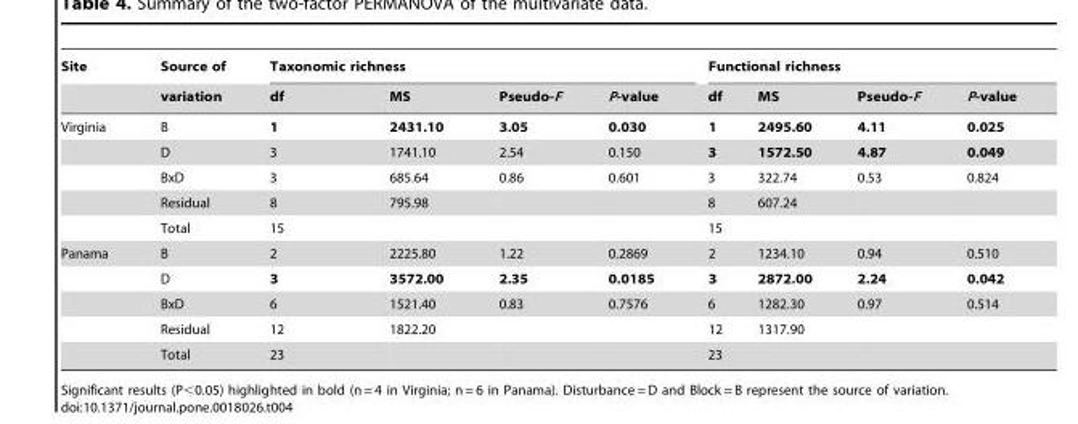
<table><thead><tr><td rowspan="2">Site</td><td rowspan="2">Source of variation</td><td colspan="4">Taxonomic richness</td><td colspan="4">Functional richness</td></tr><tr><td>df</td><td>MS</td><td>Pseudo-F</td><td>P-value</td><td>df</td><td>MS</td><td>Pseudo-F</td><td>P-value</td></tr></thead><tbody><tr><td rowspan="5">Virginia</td><td>B</td><td>1</td><td>2431.10</td><td>3.05</td><td>0.030</td><td>1</td><td>2495.60</td><td>4.11</td><td>0.025</td></tr><tr><td>D</td><td>3</td><td>1741.10</td><td>2.54</td><td>0.150</td><td>3</td><td>1572.50</td><td>4.87</td><td>0.049</td></tr><tr><td>BxD</td><td>3</td><td>685.64</td><td>0.86</td><td>0.601</td><td>3</td><td>322.74</td><td>0.53</td><td>0.824</td></tr><tr><td>Residual</td><td>8</td><td>795.98</td><td></td><td></td><td>8</td><td>607.24</td><td></td><td></td></tr><tr><td>Total</td><td>15</td><td></td><td></td><td></td><td>15</td><td></td><td></td><td></td></tr><tr><td rowspan="5">Panama</td><td>B</td><td>2</td><td>2225.80</td><td>1.22</td><td>0.2869</td><td>2</td><td>1234.10</td><td>0.94</td><td>0.510</td></tr><tr><td>D</td><td>3</td><td>3572.00</td><td>2.35</td><td>0.0185</td><td>3</td><td>2872.00</td><td>2.24</td><td>0.042</td></tr><tr><td>BxD</td><td>6</td><td>1521.40</td><td>0.83</td><td>0.7576</td><td>6</td><td>1282.30</td><td>0.97</td><td>0.514</td></tr><tr><td>Residual</td><td>12</td><td>1822.20</td><td></td><td></td><td>12</td><td>1317.90</td><td></td><td></td></tr><tr><td>Total</td><td>23</td><td></td><td></td><td></td><td>23</td><td></td><td></td><td></td></tr></tbody></table>